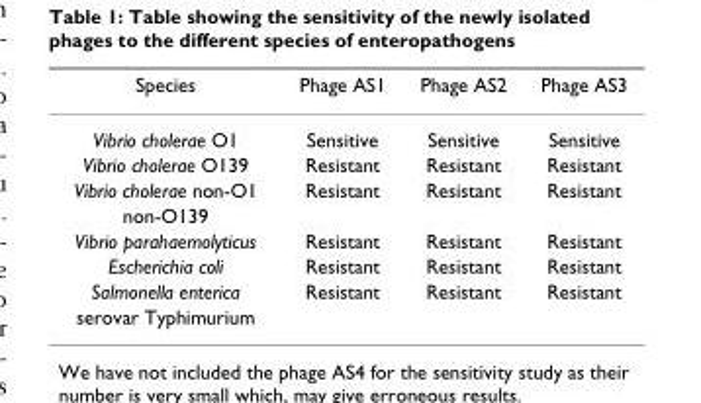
<table><thead><tr><td>Species</td><td>Phage AS1</td><td>Phage AS2</td><td>Phage AS3</td></tr></thead><tbody><tr><td>Vibrio cholerae O1</td><td>Sensitive</td><td>Sensitive</td><td>Sensitive</td></tr><tr><td>Vibrio cholerae O139</td><td>Resistant</td><td>Resistant</td><td>Resistant</td></tr><tr><td>Vibrio cholerae non-O1</td><td>Resistant</td><td>Resistant</td><td>Resistant</td></tr><tr><td colspan="4">non-O139</td></tr><tr><td>Vibrio parahaemolyticus</td><td>Resistant</td><td>Resistant</td><td>Resistant</td></tr><tr><td>Escherichia coli</td><td>Resistant</td><td>Resistant</td><td>Resistant</td></tr><tr><td>Salmonella enterica</td><td>Resistant</td><td>Resistant</td><td>Resistant</td></tr><tr><td>serovar Typhimurium</td><td></td><td></td><td></td></tr></tbody></table>